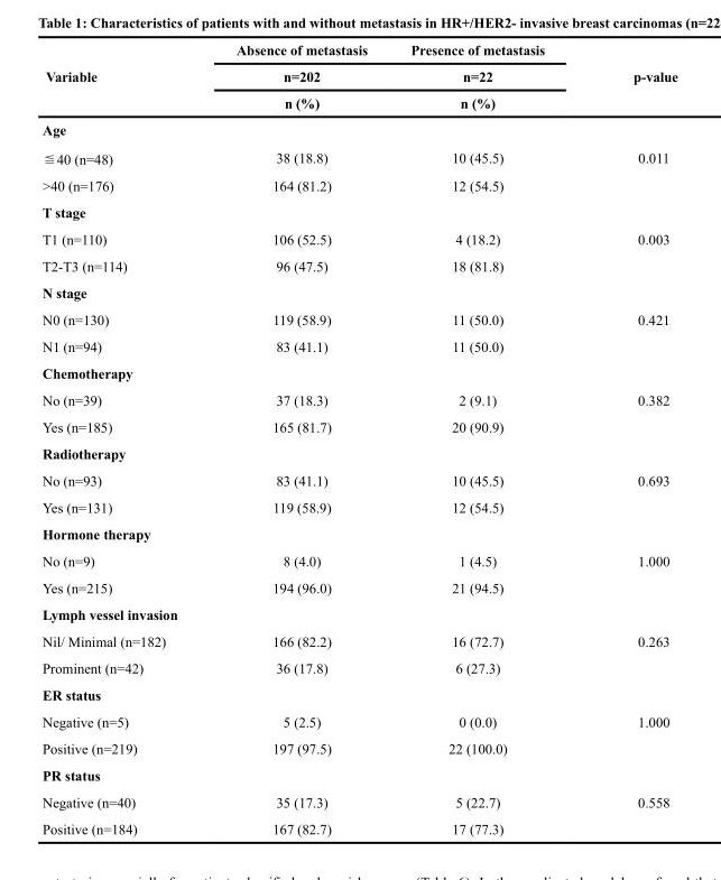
<table><thead><tr><td rowspan="3">Variable</td><td rowspan="3">Absence of metastasis n=202 n (%)</td><td rowspan="3">Presence of metastasis n=22 n (%)</td><td rowspan="3">p-value</td></tr><tr></tr><tr></tr></thead><tbody><tr><td colspan="4">Age</td></tr><tr><td>≦40 (n=48)</td><td>38 (18.8)</td><td>10 (45.5)</td><td>0.011</td></tr><tr><td>&gt;40 (n=176)</td><td>164 (81.2)</td><td>12 (54.5)</td><td></td></tr><tr><td colspan="4">T stage</td></tr><tr><td>T1 (n=110)</td><td>106 (52.5)</td><td>4 (18.2)</td><td>0.003</td></tr><tr><td>T2-T3 (n=114)</td><td>96 (47.5)</td><td>18 (81.8)</td><td></td></tr><tr><td colspan="4">N stage</td></tr><tr><td>N0 (n=130)</td><td>119 (58.9)</td><td>11 (50.0)</td><td>0.421</td></tr><tr><td>N1 (n=94)</td><td>83 (41.1)</td><td>11 (50.0)</td><td></td></tr><tr><td colspan="4">Chemotherapy</td></tr><tr><td>No (n=39)</td><td>37 (18.3)</td><td>2 (9.1)</td><td>0.382</td></tr><tr><td>Yes (n=185)</td><td>165 (81.7)</td><td>20 (90.9)</td><td></td></tr><tr><td colspan="4">Radiotherapy</td></tr><tr><td>No (n=93)</td><td>83 (41.1)</td><td>10 (45.5)</td><td>0.693</td></tr><tr><td>Yes (n=131)</td><td>119 (58.9)</td><td>12 (54.5)</td><td></td></tr><tr><td colspan="4">Hormone therapy</td></tr><tr><td>No (n=9)</td><td>8 (4.0)</td><td>1 (4.5)</td><td>1.000</td></tr><tr><td>Yes (n=215)</td><td>194 (96.0)</td><td>21 (94.5)</td><td></td></tr><tr><td colspan="4">Lymph vessel invasion</td></tr><tr><td>Nil/ Minimal (n=182)</td><td>166 (82.2)</td><td>16 (72.7)</td><td>0.263</td></tr><tr><td>Prominent (n=42)</td><td>36 (17.8)</td><td>6 (27.3)</td><td></td></tr><tr><td colspan="4">ER status</td></tr><tr><td>Negative (n=5)</td><td>5 (2.5)</td><td>0 (0.0)</td><td>1.000</td></tr><tr><td>Positive (n=219)</td><td>197 (97.5)</td><td>22 (100.0)</td><td></td></tr><tr><td colspan="4">PR status</td></tr><tr><td>Negative (n=40)</td><td>35 (17.3)</td><td>5 (22.7)</td><td>0.558</td></tr><tr><td>Positive (n=184)</td><td>167 (82.7)</td><td>17 (77.3)</td><td></td></tr></tbody></table>